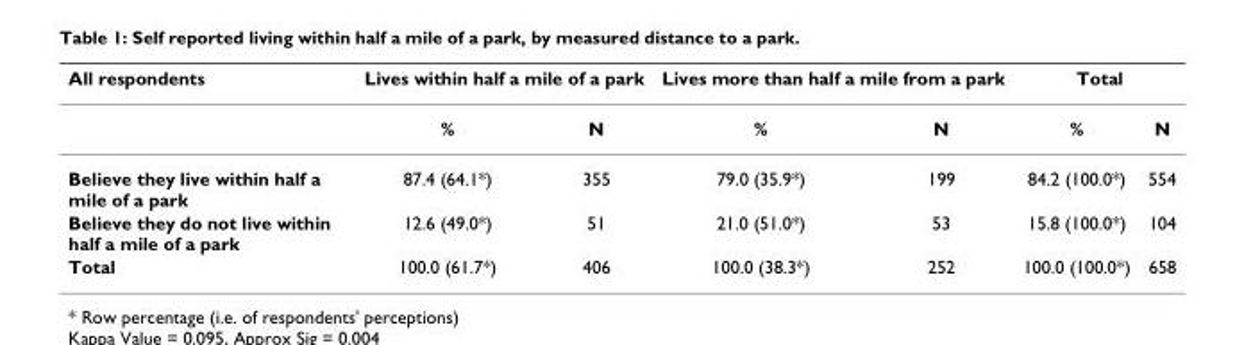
<table><thead><tr><td rowspan="2">All respondents</td><td colspan="2">Lives within half a mile of a park</td><td colspan="2">Lives more than half a mile from a park</td><td colspan="2">Total</td></tr><tr><td>%</td><td>N</td><td>%</td><td>N</td><td>%</td><td>N</td></tr></thead><tbody><tr><td>Believe they live within half a mile of a park</td><td>87.4 (64.1*)</td><td>355</td><td>79.0 (35.9*)</td><td>199</td><td>84.2 (100.0*)</td><td>554</td></tr><tr><td>Believe they do not live within half a mile of a park</td><td>12.6 (49.0*)</td><td>51</td><td>21.0 (51.0*)</td><td>53</td><td>15.8 (100.0*)</td><td>104</td></tr><tr><td>Total</td><td>100.0 (61.7*)</td><td>406</td><td>100.0 (38.3*)</td><td>252</td><td>100.0 (100.0*)</td><td>658</td></tr></tbody></table>